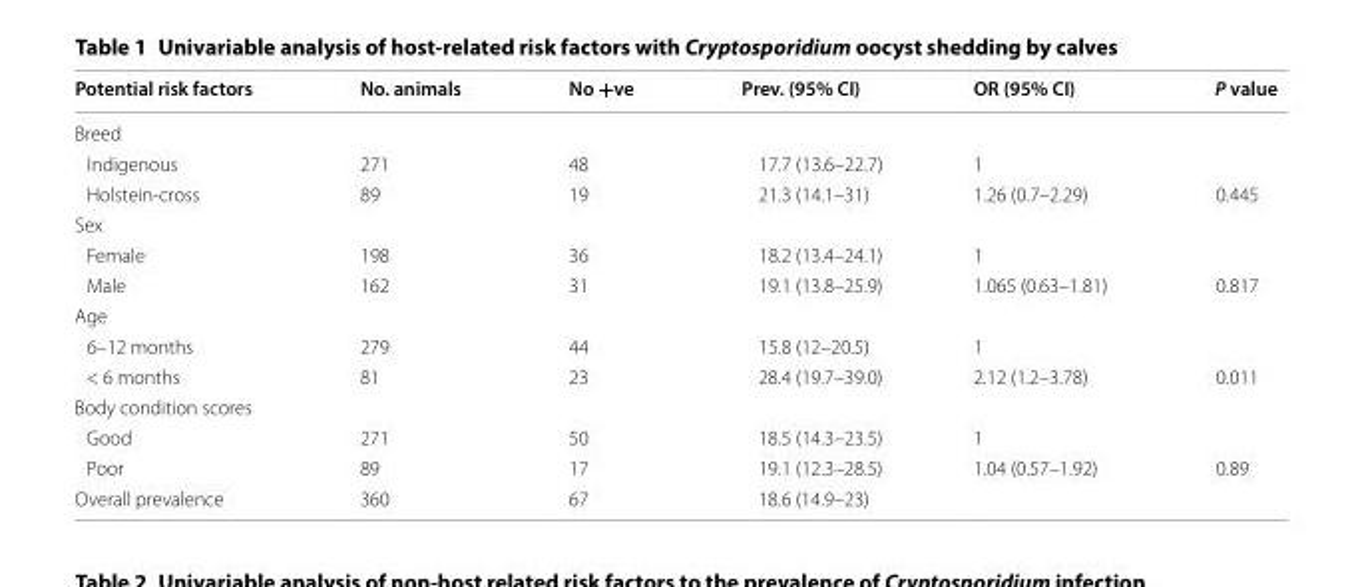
<table><thead><tr><td>Potential risk factors</td><td>No. animals</td><td>No +ve</td><td>Prev. (95% CI)</td><td>OR (95% CI)</td><td>P value</td></tr></thead><tbody><tr><td colspan="6">Breed</td></tr><tr><td>Indigenous</td><td>271</td><td>48</td><td>17.7 (13.6–22.7)</td><td>1</td><td></td></tr><tr><td>Holstein-cross</td><td>89</td><td>19</td><td>21.3 (14.1–31)</td><td>1.26 (0.7–2.29)</td><td>0.445</td></tr><tr><td colspan="6">Sex</td></tr><tr><td>Female</td><td>198</td><td>36</td><td>18.2 (13.4–24.1)</td><td>1</td><td></td></tr><tr><td>Male</td><td>162</td><td>31</td><td>19.1 (13.8–25.9)</td><td>1.065 (0.63–1.81)</td><td>0.817</td></tr><tr><td colspan="6">Age</td></tr><tr><td>6–12 months</td><td>279</td><td>44</td><td>15.8 (12–20.5)</td><td>1</td><td></td></tr><tr><td>&lt; 6 months</td><td>81</td><td>23</td><td>28.4 (19.7–39.0)</td><td>2.12 (1.2–3.78)</td><td>0.011</td></tr><tr><td colspan="6">Body condition scores</td></tr><tr><td>Good</td><td>271</td><td>50</td><td>18.5 (14.3–23.5)</td><td>1</td><td></td></tr><tr><td>Poor</td><td>89</td><td>17</td><td>19.1 (12.3–28.5)</td><td>1.04 (0.57–1.92)</td><td>0.89</td></tr><tr><td>Overall prevalence</td><td>360</td><td>67</td><td>18.6 (14.9–23)</td><td></td><td></td></tr></tbody></table>